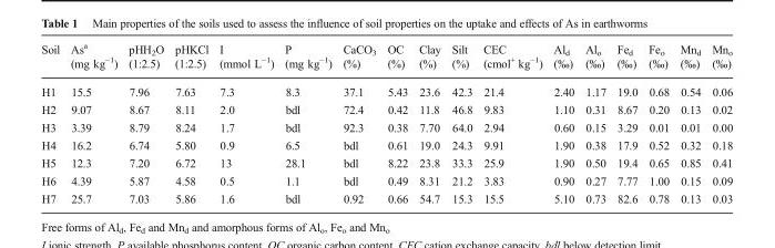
<table><thead><tr><td>Soil</td><td>As<sup>a</sup> (mg kg<sup>−1</sup>)</td><td>pHH<sub>2</sub>O (1:2.5)</td><td>pHKCl (1:2.5)</td><td>I (mmol L<sup>−1</sup>)</td><td>P (mg kg<sup>−1</sup>)</td><td>CaCO<sub>3</sub> (%)</td><td>OC (%)</td><td>Clay (%)</td><td>Silt (%)</td><td>CEC (cmol<sup>+</sup> kg<sup>−1</sup>)</td><td>Al<sub>d</sub> (‰)</td><td>Al<sub>o</sub> (‰)</td><td>Fe<sub>d</sub> (‰)</td><td>Fe<sub>o</sub> (‰)</td><td>Mn<sub>d</sub> (‰)</td><td>Mn<sub>o</sub> (‰)</td></tr></thead><tbody><tr><td>H1</td><td>15.5</td><td>7.96</td><td>7.63</td><td>7.3</td><td>8.3</td><td>37.1</td><td>5.43</td><td>23.6</td><td>42.3</td><td>21.4</td><td>2.40</td><td>1.17</td><td>19.0</td><td>0.68</td><td>0.54</td><td>0.06</td></tr><tr><td>H2</td><td>9.07</td><td>8.67</td><td>8.11</td><td>2.0</td><td>bdl</td><td>72.4</td><td>0.42</td><td>11.8</td><td>46.8</td><td>9.83</td><td>1.10</td><td>0.31</td><td>8.67</td><td>0.20</td><td>0.13</td><td>0.02</td></tr><tr><td>H3</td><td>3.39</td><td>8.79</td><td>8.24</td><td>1.7</td><td>bdl</td><td>92.3</td><td>0.38</td><td>7.70</td><td>64.0</td><td>2.94</td><td>0.60</td><td>0.15</td><td>3.29</td><td>0.01</td><td>0.01</td><td>0.00</td></tr><tr><td>H4</td><td>16.2</td><td>6.74</td><td>5.80</td><td>0.9</td><td>6.5</td><td>bdl</td><td>0.61</td><td>19.0</td><td>24.3</td><td>9.91</td><td>1.90</td><td>0.38</td><td>17.9</td><td>0.52</td><td>0.32</td><td>0.18</td></tr><tr><td>H5</td><td>12.3</td><td>7.20</td><td>6.72</td><td>13</td><td>28.1</td><td>bdl</td><td>8.22</td><td>23.8</td><td>33.3</td><td>25.9</td><td>1.90</td><td>0.50</td><td>19.4</td><td>0.65</td><td>0.85</td><td>0.41</td></tr><tr><td>H6</td><td>4.39</td><td>5.87</td><td>4.58</td><td>0.5</td><td>1.1</td><td>bdl</td><td>0.49</td><td>8.31</td><td>21.2</td><td>3.83</td><td>0.90</td><td>0.27</td><td>7.77</td><td>1.00</td><td>0.15</td><td>0.09</td></tr><tr><td>H7</td><td>25.7</td><td>7.03</td><td>5.86</td><td>1.6</td><td>bdl</td><td>0.92</td><td>0.66</td><td>54.7</td><td>15.3</td><td>15.5</td><td>5.10</td><td>0.73</td><td>82.6</td><td>0.78</td><td>0.13</td><td>0.03</td></tr></tbody></table>